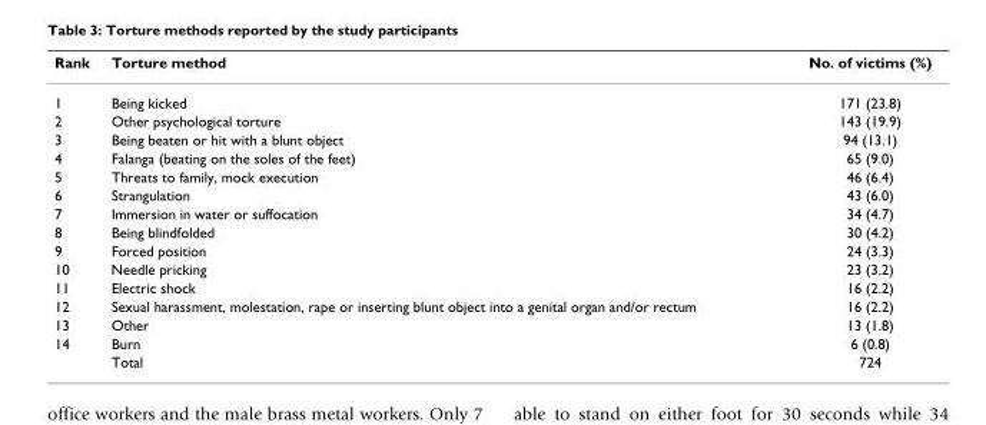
<table><thead><tr><td>Rank</td><td>Torture method</td><td>No. of victims (%)</td></tr></thead><tbody><tr><td>1</td><td>Being kicked</td><td>171 (23.8)</td></tr><tr><td>2</td><td>Other psychological torture</td><td>143 (19.9)</td></tr><tr><td>3</td><td>Being beaten or hit with a blunt object</td><td>94 (13.1)</td></tr><tr><td>4</td><td>Falanga (beating on the soles of the feet)</td><td>65 (9.0)</td></tr><tr><td>5</td><td>Threats to family, mock execution</td><td>46 (6.4)</td></tr><tr><td>6</td><td>Strangulation</td><td>43 (6.0)</td></tr><tr><td>7</td><td>Immersion in water or suffocation</td><td>34 (4.7)</td></tr><tr><td>8</td><td>Being blindfolded</td><td>30 (4.2)</td></tr><tr><td>9</td><td>Forced position</td><td>24 (3.3)</td></tr><tr><td>10</td><td>Needle pricking</td><td>23 (3.2)</td></tr><tr><td>11</td><td>Electric shock</td><td>16 (2.2)</td></tr><tr><td>12</td><td>Sexual harassment, molestation, rape or inserting blunt object into a genital organ and/or rectum</td><td>16 (2.2)</td></tr><tr><td>13</td><td>Other</td><td>13 (1.8)</td></tr><tr><td rowspan="2">14</td><td>Burn</td><td>6 (0.8)</td></tr><tr><td>Total</td><td>724</td></tr></tbody></table>